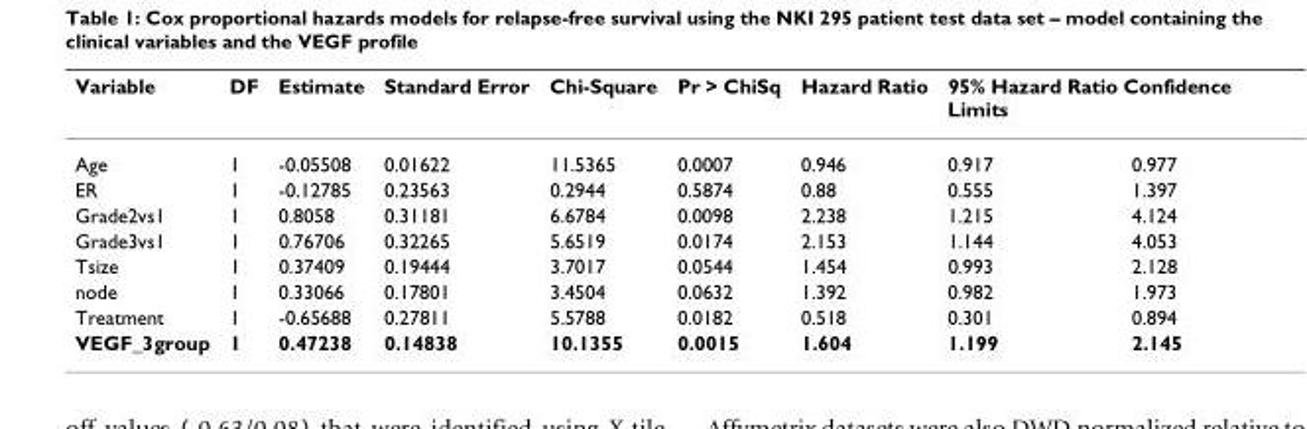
<table><thead><tr><td rowspan="2">Variable Age</td><td rowspan="2">DF 1</td><td rowspan="2">Estimate -0.05508</td><td rowspan="2">Standard Error 0.01622</td><td rowspan="2">Chi-Square 11.5365</td><td rowspan="2">Pr &gt; ChiSq 0.0007</td><td rowspan="2">Hazard Ratio 0.946</td><td colspan="2">95% Hazard Ratio Confidence Limits</td></tr><tr><td>0.917</td><td>0.977</td></tr></thead><tbody><tr><td>ER</td><td>1</td><td>-0.12785</td><td>0.23563</td><td>0.2944</td><td>0.5874</td><td>0.88</td><td>0.555</td><td>1.397</td></tr><tr><td>Grade2vs1</td><td>1</td><td>0.8058</td><td>0.31181</td><td>6.6784</td><td>0.0098</td><td>2.238</td><td>1.215</td><td>4.124</td></tr><tr><td>Grade3vs1</td><td>1</td><td>0.76706</td><td>0.32265</td><td>5.6519</td><td>0.0174</td><td>2.153</td><td>1.144</td><td>4.053</td></tr><tr><td>Tsize</td><td>1</td><td>0.37409</td><td>0.19444</td><td>3.7017</td><td>0.0544</td><td>1.454</td><td>0.993</td><td>2.128</td></tr><tr><td>node</td><td>1</td><td>0.33066</td><td>0.17801</td><td>3.4504</td><td>0.0632</td><td>1.392</td><td>0.982</td><td>1.973</td></tr><tr><td>Treatment</td><td>1</td><td>-0.65688</td><td>0.27811</td><td>5.5788</td><td>0.0182</td><td>0.518</td><td>0.301</td><td>0.894</td></tr><tr><td>VEGF_3group</td><td>1</td><td>0.47238</td><td>0.14838</td><td>10.1355</td><td>0.0015</td><td>1.604</td><td>1.199</td><td>2.145</td></tr></tbody></table>